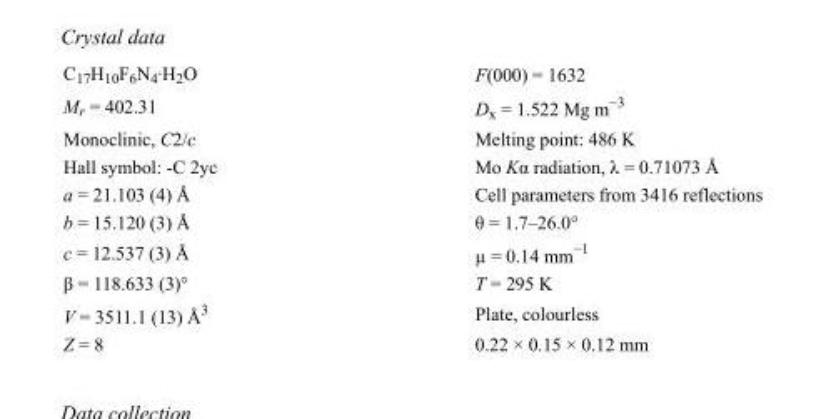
<table><tbody><tr><td>C<sub>17</sub>H<sub>10</sub>F<sub>6</sub>N<sub>4</sub>·H<sub>2</sub>O</td><td>F(000) = 1632</td></tr><tr><td>M<sub>r</sub> = 402.31</td><td>D<sub>x</sub> = 1.522 Mg m<sup>−3</sup></td></tr><tr><td>Monoclinic, C2/c</td><td>Melting point: 486 K</td></tr><tr><td>Hall symbol: -C 2yc</td><td>Mo Kα radiation, λ = 0.71073 Å</td></tr><tr><td>a = 21.103 (4) Å</td><td>Cell parameters from 3416 reflections</td></tr><tr><td>b = 15.120 (3) Å</td><td>θ = 1.7–26.0°</td></tr><tr><td>c = 12.537 (3) Å</td><td>µ = 0.14 mm<sup>−1</sup></td></tr><tr><td>β = 118.633 (3)°</td><td>T = 295 K</td></tr><tr><td>V = 3511.1 (13) Å<sup>3</sup></td><td>Plate, colourless</td></tr><tr><td>Z = 8</td><td>0.22 × 0.15 × 0.12 mm</td></tr></tbody></table>